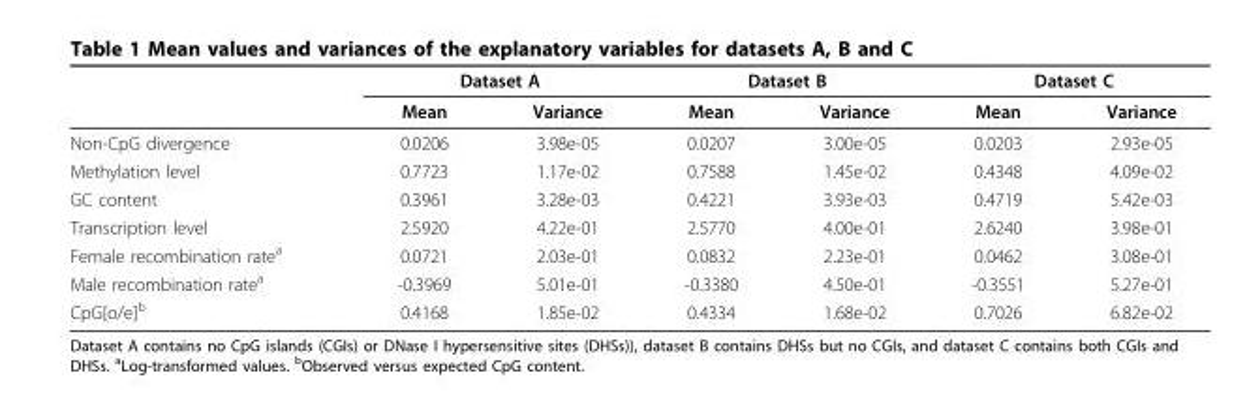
<table><thead><tr><td rowspan="2"></td><td colspan="2">Dataset A</td><td colspan="2">Dataset B</td><td colspan="2">Dataset C</td></tr><tr><td>Mean</td><td>Variance</td><td>Mean</td><td>Variance</td><td>Mean</td><td>Variance</td></tr></thead><tbody><tr><td>Non-CpG divergence</td><td>0.0206</td><td>3.98e-05</td><td>0.0207</td><td>3.00e-05</td><td>0.0203</td><td>2.93e-05</td></tr><tr><td>Methylation level</td><td>0.7723</td><td>1.17e-02</td><td>0.7588</td><td>1.45e-02</td><td>0.4348</td><td>4.09e-02</td></tr><tr><td>GC content</td><td>0.3961</td><td>3.28e-03</td><td>0.4221</td><td>3.93e-03</td><td>0.4719</td><td>5.42e-03</td></tr><tr><td>Transcription level</td><td>2.5920</td><td>4.22e-01</td><td>2.5770</td><td>4.00e-01</td><td>2.6240</td><td>3.98e-01</td></tr><tr><td>Female recombination rate<sup>a</sup></td><td>0.0721</td><td>2.03e-01</td><td>0.0832</td><td>2.23e-01</td><td>0.0462</td><td>3.08e-01</td></tr><tr><td>Male recombination rate<sup>a</sup></td><td>-0.3969</td><td>5.01e-01</td><td>-0.3380</td><td>4.50e-01</td><td>-0.3551</td><td>5.27e-01</td></tr><tr><td>CpG[o/e]<sup>b</sup></td><td>0.4168</td><td>1.85e-02</td><td>0.4334</td><td>1.68e-02</td><td>0.7026</td><td>6.82e-02</td></tr></tbody></table>